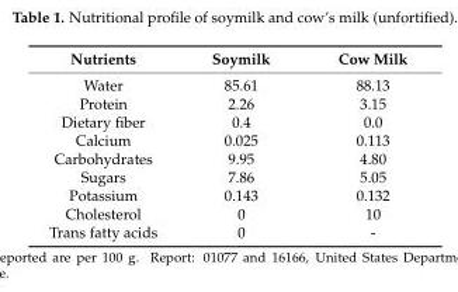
<table><thead><tr><td>Nutrients</td><td>Soymilk</td><td>Cow Milk</td></tr></thead><tbody><tr><td>Water</td><td>85.61</td><td>88.13</td></tr><tr><td>Protein</td><td>2.26</td><td>3.15</td></tr><tr><td>Dietary fiber</td><td>0.4</td><td>0.0</td></tr><tr><td>Calcium</td><td>0.025</td><td>0.113</td></tr><tr><td>Carbohydrates</td><td>9.95</td><td>4.80</td></tr><tr><td>Sugars</td><td>7.86</td><td>5.05</td></tr><tr><td>Potassium</td><td>0.143</td><td>0.132</td></tr><tr><td>Cholesterol</td><td>0</td><td>10</td></tr><tr><td>Trans fatty acids</td><td>0</td><td>-</td></tr></tbody></table>